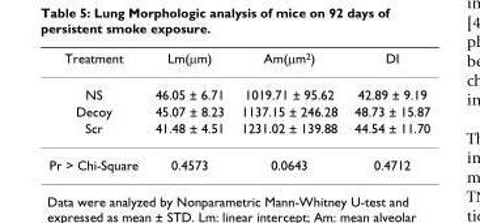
<table><thead><tr><td>Treatment</td><td>Lm(μm)</td><td>Am(μm<sup>2</sup>)</td><td>DI</td></tr></thead><tbody><tr><td>NS</td><td>46.05 ± 6.71</td><td>1019.71 ± 95.62</td><td>42.89 ± 9.19</td></tr><tr><td>Decoy</td><td>45.07 ± 8.23</td><td>1137.15 ± 246.28</td><td>48.73 ± 15.87</td></tr><tr><td>Scr</td><td>41.48 ± 4.51</td><td>1231.02 ± 139.88</td><td>44.54 ± 11.70</td></tr><tr><td>Pr &gt; Chi-Square</td><td>0.4573</td><td>0.0643</td><td>0.4712</td></tr></tbody></table>